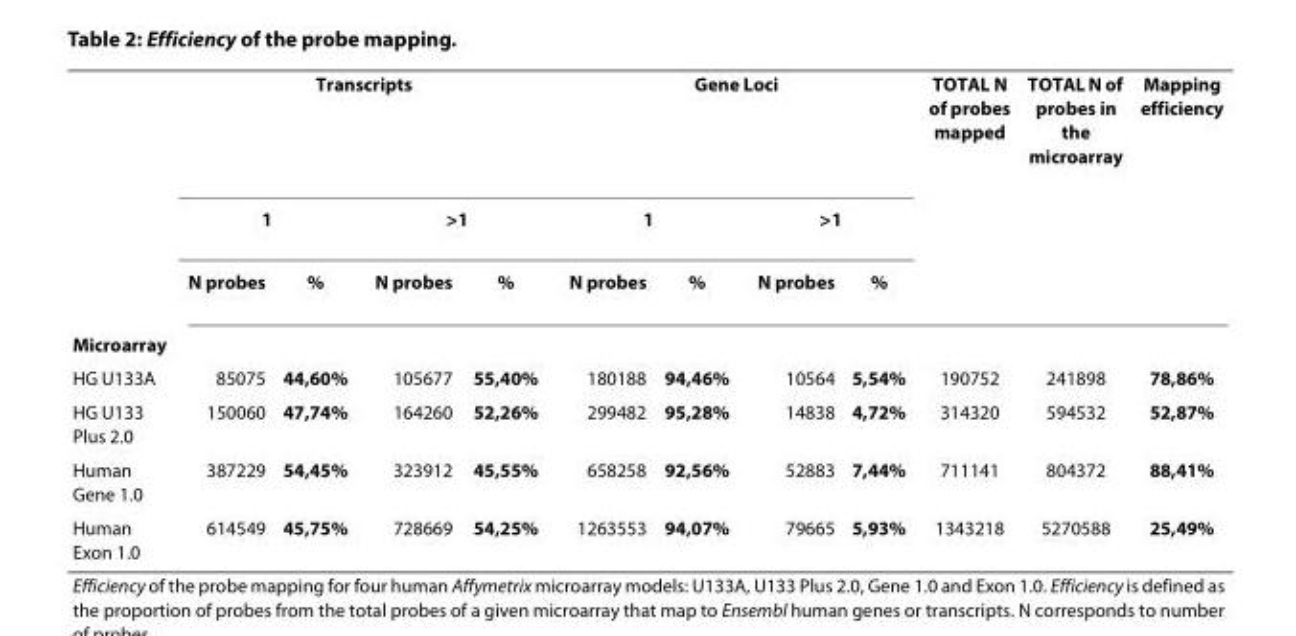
<table><thead><tr><td rowspan="3"></td><td colspan="4">Transcripts</td><td colspan="4">Gene Loci</td><td rowspan="3">TOTAL N of probes mapped</td><td rowspan="3">TOTAL N of probes in the microarray</td><td rowspan="3">Mapping efficiency</td></tr><tr><td colspan="2">1</td><td colspan="2">&gt;1</td><td colspan="2">1</td><td colspan="2">&gt;1</td></tr><tr><td>N probes</td><td>%</td><td>N probes</td><td>%</td><td>N probes</td><td>%</td><td>N probes</td><td>%</td></tr></thead><tbody><tr><td colspan="12">Microarray</td></tr><tr><td>HG U133A</td><td>85075</td><td>44,60%</td><td>105677</td><td>55,40%</td><td>180188</td><td>94,46%</td><td>10564</td><td>5,54%</td><td>190752</td><td>241898</td><td>78,86%</td></tr><tr><td>HG U133 Plus 2.0</td><td>150060</td><td>47,74%</td><td>164260</td><td>52,26%</td><td>299482</td><td>95,28%</td><td>14838</td><td>4,72%</td><td>314320</td><td>594532</td><td>52,87%</td></tr><tr><td>Human Gene 1.0</td><td>387229</td><td>54,45%</td><td>323912</td><td>45,55%</td><td>658258</td><td>92,56%</td><td>52883</td><td>7,44%</td><td>711141</td><td>804372</td><td>88,41%</td></tr><tr><td>Human Exon 1.0</td><td>614549</td><td>45,75%</td><td>728669</td><td>54,25%</td><td>1263553</td><td>94,07%</td><td>79665</td><td>5,93%</td><td>1343218</td><td>5270588</td><td>25,49%</td></tr></tbody></table>